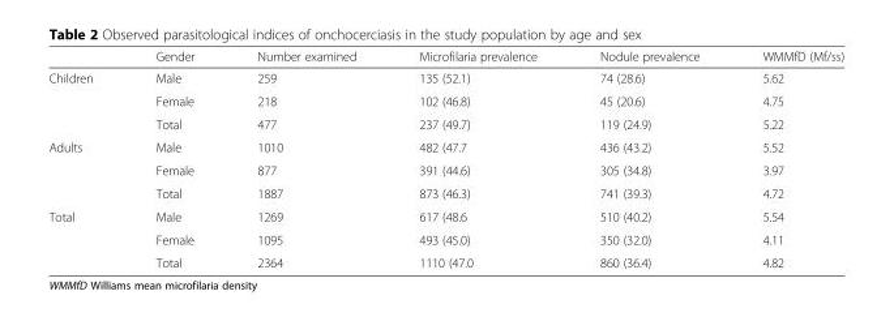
<table><thead><tr><td></td><td>Gender</td><td>Number examined</td><td>Microfilaria prevalence</td><td>Nodule prevalence</td><td>WMMfD (Mf/ss)</td></tr></thead><tbody><tr><td rowspan="3">Children</td><td>Male</td><td>259</td><td>135 (52.1)</td><td>74 (28.6)</td><td>5.62</td></tr><tr><td>Female</td><td>218</td><td>102 (46.8)</td><td>45 (20.6)</td><td>4.75</td></tr><tr><td>Total</td><td>477</td><td>237 (49.7)</td><td>119 (24.9)</td><td>5.22</td></tr><tr><td rowspan="3">Adults</td><td>Male</td><td>1010</td><td>482 (47.7</td><td>436 (43.2)</td><td>5.52</td></tr><tr><td>Female</td><td>877</td><td>391 (44.6)</td><td>305 (34.8)</td><td>3.97</td></tr><tr><td>Total</td><td>1887</td><td>873 (46.3)</td><td>741 (39.3)</td><td>4.72</td></tr><tr><td rowspan="3">Total</td><td>Male</td><td>1269</td><td>617 (48.6</td><td>510 (40.2)</td><td>5.54</td></tr><tr><td>Female</td><td>1095</td><td>493 (45.0)</td><td>350 (32.0)</td><td>4.11</td></tr><tr><td>Total</td><td>2364</td><td>1110 (47.0</td><td>860 (36.4)</td><td>4.82</td></tr></tbody></table>